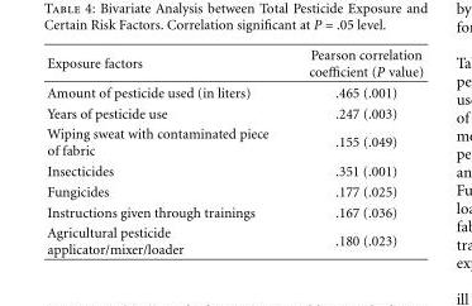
<table><thead><tr><td>Exposure factors</td><td>Pearson correlation coefficient (P value)</td></tr></thead><tbody><tr><td>Amount of pesticide used (in liters)</td><td>.465 (.001)</td></tr><tr><td>Years of pesticide use</td><td>.247 (.003)</td></tr><tr><td>Wiping sweat with contaminated piece of fabric</td><td>.155 (.049)</td></tr><tr><td>Insecticides</td><td>.351 (.001)</td></tr><tr><td>Fungicides</td><td>.177 (.025)</td></tr><tr><td>Instructions given through trainings</td><td>.167 (.036)</td></tr><tr><td>Agricultural pesticide applicator/mixer/loader</td><td>.180 (.023)</td></tr></tbody></table>